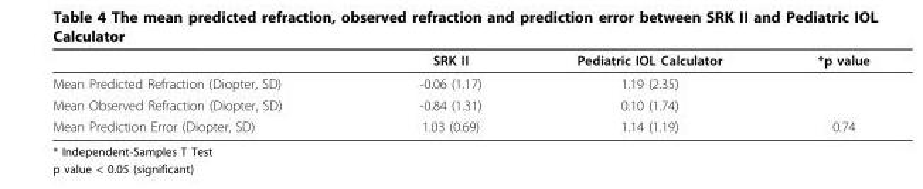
<table><thead><tr><td></td><td>SRK II</td><td>Pediatric IOL Calculator</td><td>*p value</td></tr></thead><tbody><tr><td>Mean Predicted Refraction (Diopter, SD)</td><td>-0.06 (1.17)</td><td>1.19 (2.35)</td><td></td></tr><tr><td>Mean Observed Refraction (Diopter, SD)</td><td>-0.84 (1.31)</td><td>0.10 (1.74)</td><td></td></tr><tr><td>Mean Prediction Error (Diopter, SD)</td><td>1.03 (0.69)</td><td>1.14 (1.19)</td><td>0.74</td></tr></tbody></table>